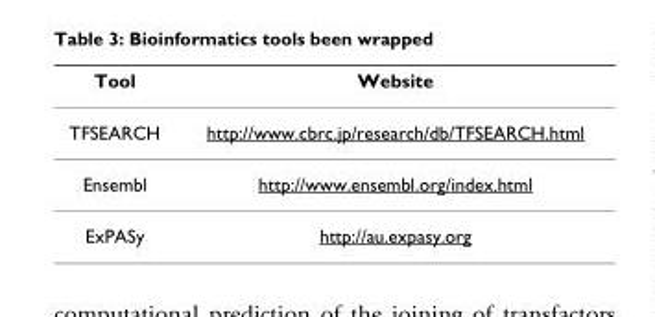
<table><thead><tr><td>Tool</td><td>Website</td></tr></thead><tbody><tr><td>TFSEARCH</td><td>http://www.cbrc.jp/research/db/TFSEARCH.html</td></tr><tr><td>Ensembl</td><td>http://www.ensembl.org/index.html</td></tr><tr><td>ExPASy</td><td>http://au.expasy.org</td></tr></tbody></table>